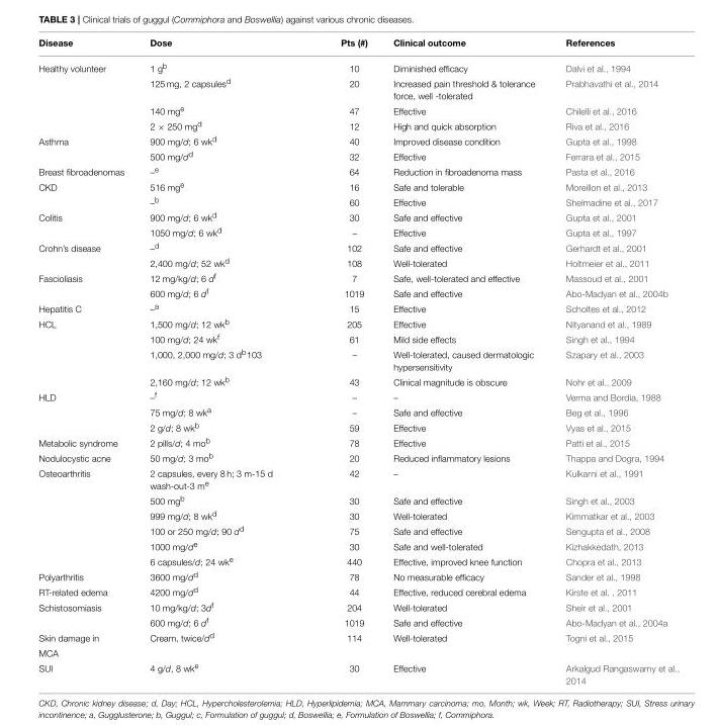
<table><thead><tr><td>Disease</td><td>Dose</td><td>Pts (#)</td><td>Clinical outcome</td><td>References</td></tr></thead><tbody><tr><td rowspan="4">Healthy volunteer</td><td>1 g<sup>b</sup></td><td>10</td><td>Diminished efficacy</td><td>Dalvi et al., 1994</td></tr><tr><td>125 mg, 2 capsules<sup>d</sup></td><td>20</td><td>Increased pain threshold &amp; tolerance force, well -tolerated</td><td>Prabhavathi et al., 2014</td></tr><tr><td>140 mg<sup>e</sup></td><td>47</td><td>Effective</td><td>Chilelli et al., 2016</td></tr><tr><td>2 × 250 mg<sup>d</sup></td><td>12</td><td>High and quick absorption</td><td>Riva et al., 2016</td></tr><tr><td rowspan="2">Asthma</td><td>900 mg/d; 6 wk<sup>d</sup></td><td>40</td><td>Improved disease condition</td><td>Gupta et al., 1998</td></tr><tr><td>500 mg/d<sup>d</sup></td><td>32</td><td>Effective</td><td>Ferrara et al., 2015</td></tr><tr><td>Breast fibroadenomas</td><td>–<sup>e</sup></td><td>64</td><td>Reduction in fibroadenoma mass</td><td>Pasta et al., 2016</td></tr><tr><td rowspan="2">CKD</td><td>516 mg<sup>e</sup></td><td>16</td><td>Safe and tolerable</td><td>Moreillon et al., 2013</td></tr><tr><td>–<sup>b</sup></td><td>60</td><td>Effective</td><td>Shelmadine et al., 2017</td></tr><tr><td rowspan="2">Colitis</td><td>900 mg/d; 6 wk<sup>d</sup></td><td>30</td><td>Safe and effective</td><td>Gupta et al., 2001</td></tr><tr><td>1050 mg/d; 6 wk<sup>d</sup></td><td>–</td><td>Effective</td><td>Gupta et al., 1997</td></tr><tr><td rowspan="2">Crohn’s disease</td><td>–<sup>d</sup></td><td>102</td><td>Safe and effective</td><td>Gerhardt et al., 2001</td></tr><tr><td>2,400 mg/d; 52 wk<sup>d</sup></td><td>108</td><td>Well-tolerated</td><td>Holtmeier et al., 2011</td></tr><tr><td rowspan="2">Fascioliasis</td><td>12 mg/kg/d; 6 d<sup>f</sup></td><td>7</td><td>Safe, well-tolerated and effective</td><td>Massoud et al., 2001</td></tr><tr><td>600 mg/d; 6 d<sup>f</sup></td><td>1019</td><td>Safe and effective</td><td>Abo-Madyan et al., 2004b</td></tr><tr><td>Hepatitis C</td><td>–<sup>a</sup></td><td>15</td><td>Effective</td><td>Scholtes et al., 2012</td></tr><tr><td rowspan="4">HCL</td><td>1,500 mg/d; 12 wk<sup>b</sup></td><td>205</td><td>Effective</td><td>Nityanand et al., 1989</td></tr><tr><td>100 mg/d; 24 wk<sup>f</sup></td><td>61</td><td>Mild side effects</td><td>Singh et al., 1994</td></tr><tr><td>1,000, 2,000 mg/d; 3 d<sup>b</sup>103</td><td>–</td><td>Well-tolerated, caused dermatologic hypersensitivity</td><td>Szapary et al., 2003</td></tr><tr><td>2,160 mg/d; 12 wk<sup>b</sup></td><td>43</td><td>Clinical magnitude is obscure</td><td>Nohr et al., 2009</td></tr><tr><td rowspan="3">HLD</td><td>–<sup>f</sup></td><td>–</td><td>–</td><td>Verma and Bordia, 1988</td></tr><tr><td>75 mg/d; 8 wk<sup>a</sup></td><td>–</td><td>Safe and effective</td><td>Beg et al., 1996</td></tr><tr><td>2 g/d; 8 wk<sup>b</sup></td><td>59</td><td>Effective</td><td>Vyas et al., 2015</td></tr><tr><td>Metabolic syndrome</td><td>2 pills/d; 4 mo<sup>b</sup></td><td>78</td><td>Effective</td><td>Patti et al., 2015</td></tr><tr><td>Nodulocystic acne</td><td>50 mg/d; 3 mo<sup>b</sup></td><td>20</td><td>Reduced inflammatory lesions</td><td>Thappa and Dogra, 1994</td></tr><tr><td rowspan="6">Osteoarthritis</td><td>2 capsules, every 8 h; 3 m-15 d wash-out-3 m<sup>e</sup></td><td>42</td><td>–</td><td>Kulkarni et al., 1991</td></tr><tr><td>500 mg<sup>b</sup></td><td>30</td><td>Safe and effective</td><td>Singh et al., 2003</td></tr><tr><td>999 mg/d; 8 wk<sup>d</sup></td><td>30</td><td>Well-tolerated</td><td>Kimmatkar et al., 2003</td></tr><tr><td>100 or 250 mg/d; 90 d<sup>d</sup></td><td>75</td><td>Safe and effective</td><td>Sengupta et al., 2008</td></tr><tr><td>1000 mg/d<sup>e</sup></td><td>30</td><td>Safe and well-tolerated</td><td>Kizhakkedath, 2013</td></tr><tr><td>6 capsules/d; 24 wk<sup>e</sup></td><td>440</td><td>Effective, improved knee function</td><td>Chopra et al., 2013</td></tr><tr><td>Polyarthritis</td><td>3600 mg/d<sup>d</sup></td><td>78</td><td>No measurable efficacy</td><td>Sander et al., 1998</td></tr><tr><td>RT-related edema</td><td>4200 mg/d<sup>d</sup></td><td>44</td><td>Effective, reduced cerebral edema</td><td>Kirste et al. , 2011</td></tr><tr><td rowspan="2">Schistosomiasis</td><td>10 mg/kg/d; 3d<sup>f</sup></td><td>204</td><td>Well-tolerated</td><td>Sheir et al., 2001</td></tr><tr><td>600 mg/d; 6 d<sup>f</sup></td><td>1019</td><td>Safe and effective</td><td>Abo-Madyan et al., 2004a</td></tr><tr><td>Skin damage in</td><td>Cream, twice/d<sup>d</sup></td><td>114</td><td>Well-tolerated</td><td>Togni et al., 2015</td></tr><tr><td colspan="5">MCA</td></tr><tr><td>SUI</td><td>4 g/d, 8 wk<sup>e</sup></td><td>30</td><td>Effective</td><td>Arkalgud Rangaswamy et al., 2014</td></tr></tbody></table>